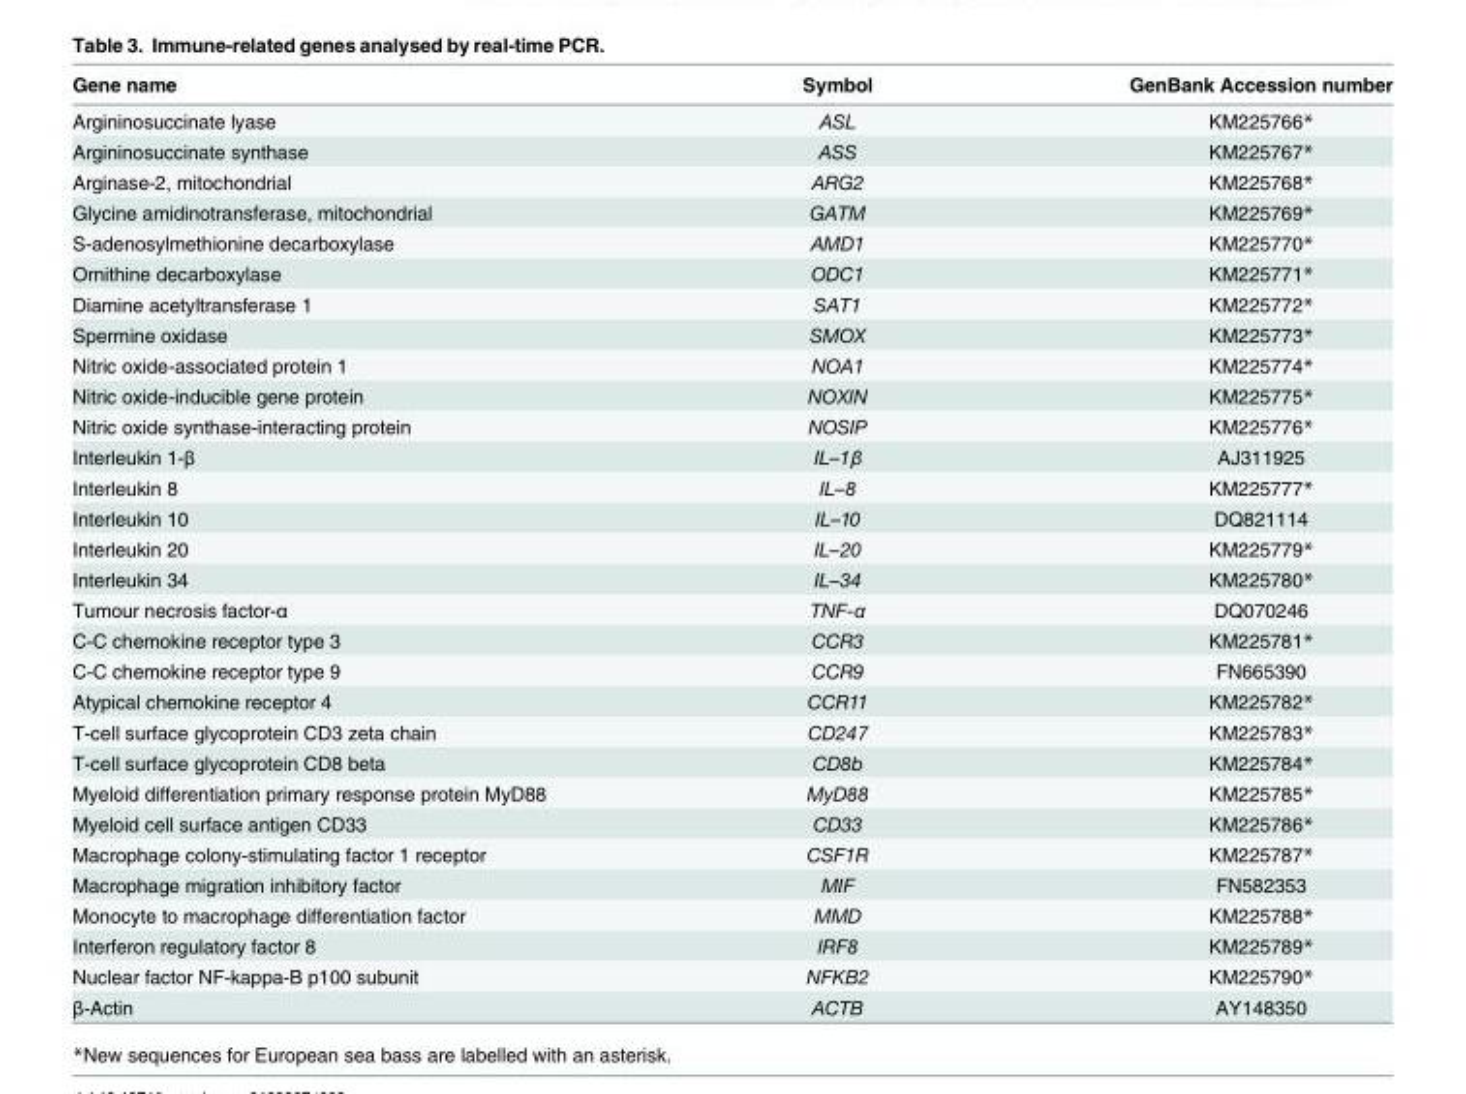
<table><thead><tr><td>Gene name</td><td>Symbol</td><td>GenBank Accession number</td></tr></thead><tbody><tr><td>Argininosuccinate lyase</td><td>ASL</td><td>KM225766*</td></tr><tr><td>Argininosuccinate synthase</td><td>ASS</td><td>KM225767*</td></tr><tr><td>Arginase-2, mitochondrial</td><td>ARG2</td><td>KM225768*</td></tr><tr><td>Glycine amidinotransferase, mitochondrial</td><td>GATM</td><td>KM225769*</td></tr><tr><td>S-adenosylmethionine decarboxylase</td><td>AMD1</td><td>KM225770*</td></tr><tr><td>Ornithine decarboxylase</td><td>ODC1</td><td>KM225771*</td></tr><tr><td>Diamine acetyltransferase 1</td><td>SAT1</td><td>KM225772*</td></tr><tr><td>Spermine oxidase</td><td>SMOX</td><td>KM225773*</td></tr><tr><td>Nitric oxide-associated protein 1</td><td>NOA1</td><td>KM225774*</td></tr><tr><td>Nitric oxide-inducible gene protein</td><td>NOXIN</td><td>KM225775*</td></tr><tr><td>Nitric oxide synthase-interacting protein</td><td>NOSIP</td><td>KM225776*</td></tr><tr><td>Interleukin 1-β</td><td>IL–1β</td><td>AJ311925</td></tr><tr><td>Interleukin 8</td><td>IL–8</td><td>KM225777*</td></tr><tr><td>Interleukin 10</td><td>IL–10</td><td>DQ821114</td></tr><tr><td>Interleukin 20</td><td>IL–20</td><td>KM225779*</td></tr><tr><td>Interleukin 34</td><td>IL–34</td><td>KM225780*</td></tr><tr><td>Tumour necrosis factor-α</td><td>TNF-α</td><td>DQ070246</td></tr><tr><td>C-C chemokine receptor type 3</td><td>CCR3</td><td>KM225781*</td></tr><tr><td>C-C chemokine receptor type 9</td><td>CCR9</td><td>FN665390</td></tr><tr><td>Atypical chemokine receptor 4</td><td>CCR11</td><td>KM225782*</td></tr><tr><td>T-cell surface glycoprotein CD3 zeta chain</td><td>CD247</td><td>KM225783*</td></tr><tr><td>T-cell surface glycoprotein CD8 beta</td><td>CD8b</td><td>KM225784*</td></tr><tr><td>Myeloid differentiation primary response protein MyD88</td><td>MyD88</td><td>KM225785*</td></tr><tr><td>Myeloid cell surface antigen CD33</td><td>CD33</td><td>KM225786*</td></tr><tr><td>Macrophage colony-stimulating factor 1 receptor</td><td>CSF1R</td><td>KM225787*</td></tr><tr><td>Macrophage migration inhibitory factor</td><td>MIF</td><td>FN582353</td></tr><tr><td>Monocyte to macrophage differentiation factor</td><td>MMD</td><td>KM225788*</td></tr><tr><td>Interferon regulatory factor 8</td><td>IRF8</td><td>KM225789*</td></tr><tr><td>Nuclear factor NF-kappa-B p100 subunit</td><td>NFKB2</td><td>KM225790*</td></tr><tr><td>β-Actin</td><td>ACTB</td><td>AY148350</td></tr></tbody></table>